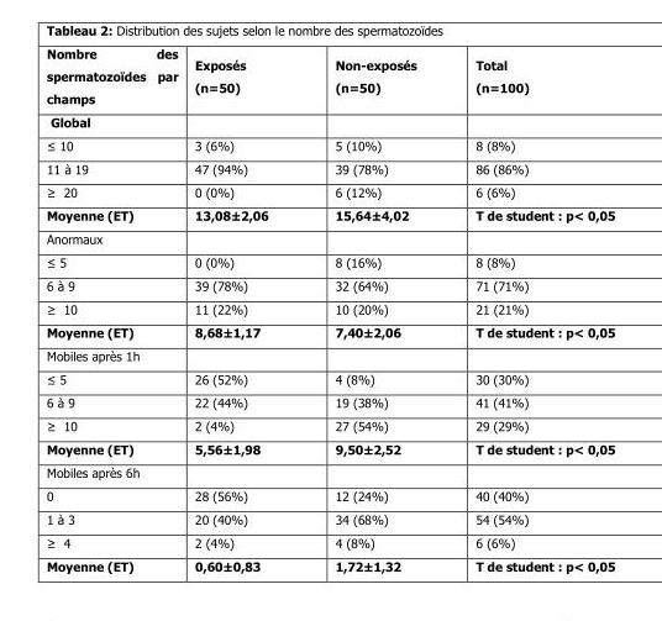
<table><thead><tr><td>Nombre des spermatozoïdes par champs</td><td>Exposés (n=50)</td><td>Non-exposés (n=50)</td><td>Total (n=100)</td></tr></thead><tbody><tr><td colspan="4">Global</td></tr><tr><td>≤ 10</td><td>3 (6%)</td><td>5 (10%)</td><td>8 (8%)</td></tr><tr><td>11 à 19</td><td>47 (94%)</td><td>39 (78%)</td><td>86 (86%)</td></tr><tr><td>≥ 20</td><td>0 (0%)</td><td>6 (12%)</td><td>6 (6%)</td></tr><tr><td>Moyenne (ET)</td><td>13,08±2,06</td><td>15,64±4,02</td><td>T de student : p&lt; 0,05</td></tr><tr><td colspan="4">Anormaux</td></tr><tr><td>≤ 5</td><td>0 (0%)</td><td>8 (16%)</td><td>8 (8%)</td></tr><tr><td>6 à 9</td><td>39 (78%)</td><td>32 (64%)</td><td>71 (71%)</td></tr><tr><td>≥ 10</td><td>11 (22%)</td><td>10 (20%)</td><td>21 (21%)</td></tr><tr><td>Moyenne (ET)</td><td>8,68±1,17</td><td>7,40±2,06</td><td>T de student : p&lt; 0,05</td></tr><tr><td colspan="4">Mobiles après 1h</td></tr><tr><td>≤ 5</td><td>26 (52%)</td><td>4 (8%)</td><td>30 (30%)</td></tr><tr><td>6 à 9</td><td>22 (44%)</td><td>19 (38%)</td><td>41 (41%)</td></tr><tr><td>≥ 10</td><td>2 (4%)</td><td>27 (54%)</td><td>29 (29%)</td></tr><tr><td>Moyenne (ET)</td><td>5,56±1,98</td><td>9,50±2,52</td><td>T de student : p&lt; 0,05</td></tr><tr><td colspan="4">Mobiles après 6h</td></tr><tr><td>0</td><td>28 (56%)</td><td>12 (24%)</td><td>40 (40%)</td></tr><tr><td>1 à 3</td><td>20 (40%)</td><td>34 (68%)</td><td>54 (54%)</td></tr><tr><td>≥ 4</td><td>2 (4%)</td><td>4 (8%)</td><td>6 (6%)</td></tr><tr><td>Moyenne (ET)</td><td>0,60±0,83</td><td>1,72±1,32</td><td>T de student : p&lt; 0,05</td></tr></tbody></table>